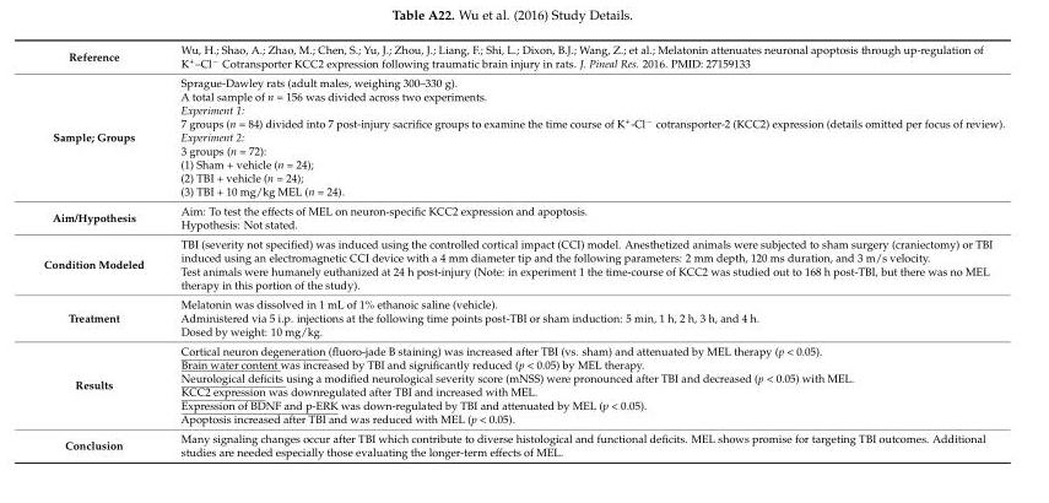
<table><tbody><tr><td>Reference</td><td>Wu, H.; Shao, A.; Zhao, M.; Chen, S.; Yu, J.; Zhou, J.; Liang, F.; Shi, L.; Dixon, B.J.; Wang, Z.; et al.; Melatonin attenuates neuronal apoptosis through up-regulation of K<sup>+</sup>–Cl<sup>−</sup> Cotransporter KCC2 expression following traumatic brain injury in rats. J. Pineal Res. 2016. PMID: 27159133</td></tr><tr><td>Sample; Groups</td><td>Sprague-Dawley rats (adult males, weighing 300–330 g). A total sample of n = 156 was divided across two experiments. Experiment 1: 7 groups (n = 84) divided into 7 post-injury sacrifice groups to examine the time course of K<sup>+</sup>-Cl<sup>−</sup> cotransporter-2 (KCC2) expression (details omitted per focus of review). Experiment 2: 3 groups (n = 72): (1) Sham + vehicle (n = 24); (2) TBI + vehicle (n = 24); (3) TBI + 10 mg/kg MEL (n = 24).</td></tr><tr><td>Aim/Hypothesis</td><td>Aim: To test the effects of MEL on neuron-specific KCC2 expression and apoptosis. Hypothesis: Not stated.</td></tr><tr><td>Condition Modeled</td><td>TBI (severity not specified) was induced using the controlled cortical impact (CCI) model. Anesthetized animals were subjected to sham surgery (craniectomy) or TBI induced using an electromagnetic CCI device with a 4 mm diameter tip and the following parameters: 2 mm depth, 120 ms duration, and 3 m/s velocity. Test animals were humanely euthanized at 24 h post-injury (Note: in experiment 1 the time-course of KCC2 was studied out to 168 h post-TBI, but there was no MEL therapy in this portion of the study).</td></tr><tr><td>Treatment</td><td>Melatonin was dissolved in 1 mL of 1% ethanoic saline (vehicle). Administered via 5 i.p. injections at the following time points post-TBI or sham induction: 5 min, 1 h, 2 h, 3 h, and 4 h. Dosed by weight: 10 mg/kg.</td></tr><tr><td>Results</td><td>Cortical neuron degeneration (fluoro-jade B staining) was increased after TBI (vs. sham) and attenuated by MEL therapy (p &lt; 0.05). Brain water content was increased by TBI and significantly reduced (p &lt; 0.05) by MEL therapy. Neurological deficits using a modified neurological severity score (mNSS) were pronounced after TBI and decreased (p &lt; 0.05) with MEL. KCC2 expression was downregulated after TBI and increased with MEL. Expression of BDNF and p-ERK was down-regulated by TBI and attenuated by MEL (p &lt; 0.05). Apoptosis increased after TBI and was reduced with MEL (p &lt; 0.05).</td></tr><tr><td>Conclusion</td><td>Many signaling changes occur after TBI which contribute to diverse histological and functional deficits. MEL shows promise for targeting TBI outcomes. Additional studies are needed especially those evaluating the longer-term effects of MEL.</td></tr></tbody></table>